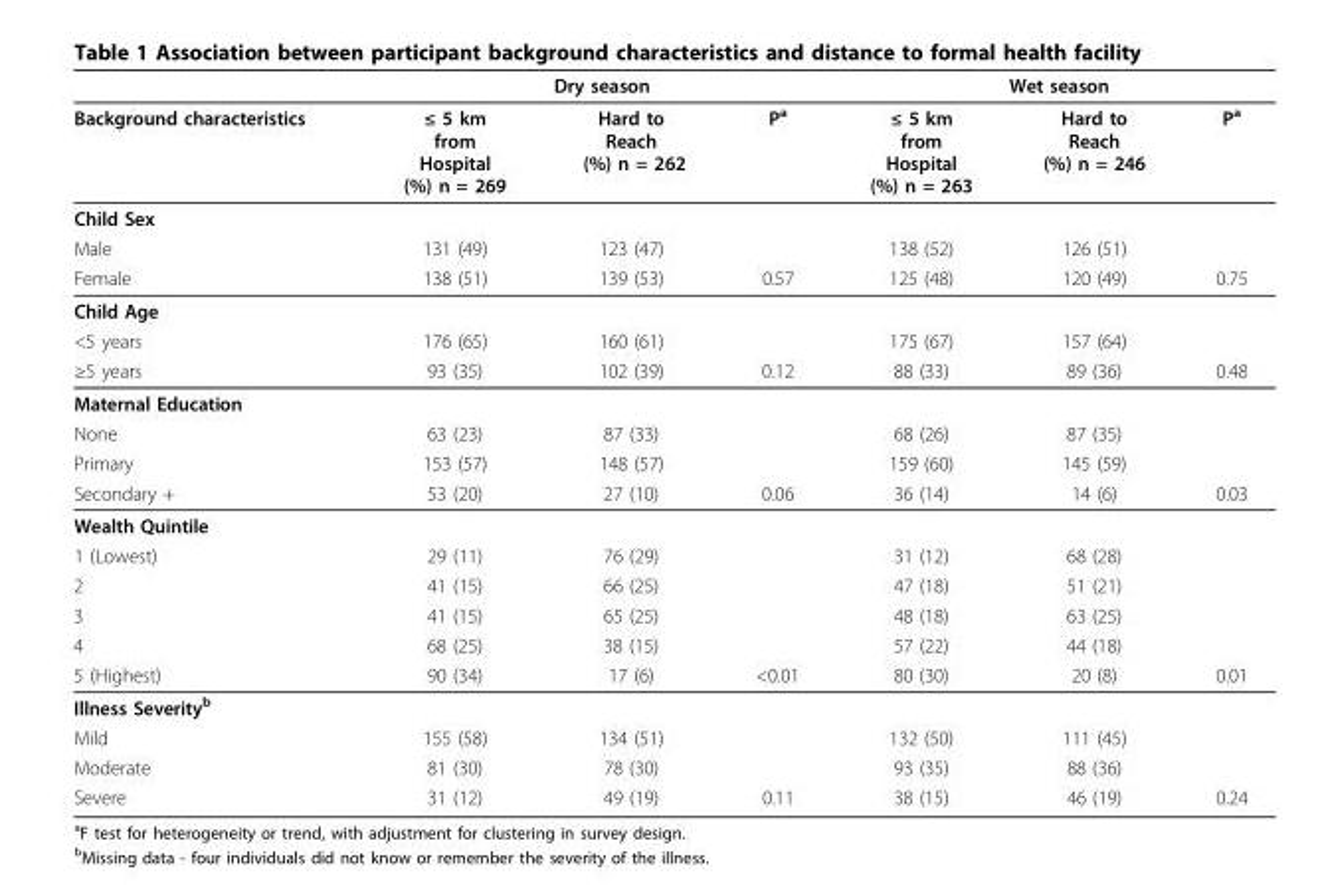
<table><thead><tr><td rowspan="2">Background characteristics</td><td colspan="3">Dry season</td><td colspan="3">Wet season</td></tr><tr><td>≤ 5 km from Hospital (%) n = 269</td><td>Hard to Reach (%) n = 262</td><td>P<sup>a</sup></td><td>≤ 5 km from Hospital (%) n = 263</td><td>Hard to Reach (%) n = 246</td><td>P<sup>a</sup></td></tr></thead><tbody><tr><td colspan="7">Child Sex</td></tr><tr><td>Male</td><td>131 (49)</td><td>123 (47)</td><td></td><td>138 (52)</td><td>126 (51)</td><td></td></tr><tr><td>Female</td><td>138 (51)</td><td>139 (53)</td><td>0.57</td><td>125 (48)</td><td>120 (49)</td><td>0.75</td></tr><tr><td colspan="7">Child Age</td></tr><tr><td>&lt;5 years</td><td>176 (65)</td><td>160 (61)</td><td></td><td>175 (67)</td><td>157 (64)</td><td></td></tr><tr><td>≥5 years</td><td>93 (35)</td><td>102 (39)</td><td>0.12</td><td>88 (33)</td><td>89 (36)</td><td>0.48</td></tr><tr><td colspan="7">Maternal Education</td></tr><tr><td>None</td><td>63 (23)</td><td>87 (33)</td><td></td><td>68 (26)</td><td>87 (35)</td><td></td></tr><tr><td>Primary</td><td>153 (57)</td><td>148 (57)</td><td></td><td>159 (60)</td><td>145 (59)</td><td></td></tr><tr><td>Secondary +</td><td>53 (20)</td><td>27 (10)</td><td>0.06</td><td>36 (14)</td><td>14 (6)</td><td>0.03</td></tr><tr><td colspan="7">Wealth Quintile</td></tr><tr><td>1 (Lowest)</td><td>29 (11)</td><td>76 (29)</td><td></td><td>31 (12)</td><td>68 (28)</td><td></td></tr><tr><td>2</td><td>41 (15)</td><td>66 (25)</td><td></td><td>47 (18)</td><td>51 (21)</td><td></td></tr><tr><td>3</td><td>41 (15)</td><td>65 (25)</td><td></td><td>48 (18)</td><td>63 (25)</td><td></td></tr><tr><td>4</td><td>68 (25)</td><td>38 (15)</td><td></td><td>57 (22)</td><td>44 (18)</td><td></td></tr><tr><td>5 (Highest)</td><td>90 (34)</td><td>17 (6)</td><td>&lt;0.01</td><td>80 (30)</td><td>20 (8)</td><td>0.01</td></tr><tr><td colspan="7">Illness Severity<sup>b</sup></td></tr><tr><td>Mild</td><td>155 (58)</td><td>134 (51)</td><td></td><td>132 (50)</td><td>111 (45)</td><td></td></tr><tr><td>Moderate</td><td>81 (30)</td><td>78 (30)</td><td></td><td>93 (35)</td><td>88 (36)</td><td></td></tr><tr><td>Severe</td><td>31 (12)</td><td>49 (19)</td><td>0.11</td><td>38 (15)</td><td>46 (19)</td><td>0.24</td></tr></tbody></table>